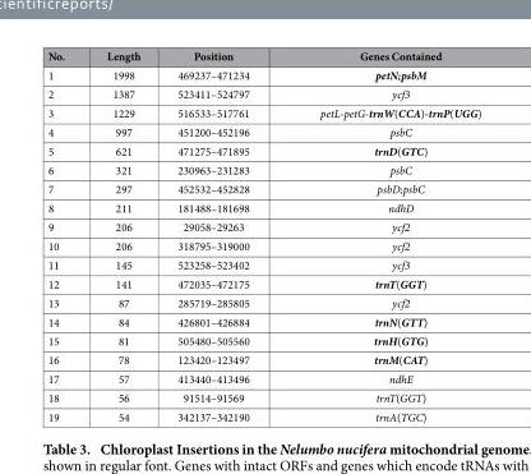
<table><thead><tr><td>No.</td><td>Length</td><td>Position</td><td>Genes Contained</td></tr></thead><tbody><tr><td>1</td><td>1998</td><td>469237–471234</td><td>petN;psbM</td></tr><tr><td>2</td><td>1387</td><td>523411–524797</td><td>ycf3</td></tr><tr><td>3</td><td>1229</td><td>516533–517761</td><td>petL-petG-trnW(CCA)-trnP(UGG)</td></tr><tr><td>4</td><td>997</td><td>451200–452196</td><td>psbC</td></tr><tr><td>5</td><td>621</td><td>471275–471895</td><td>trnD(GTC)</td></tr><tr><td>6</td><td>321</td><td>230963–231283</td><td>psbC</td></tr><tr><td>7</td><td>297</td><td>452532–452828</td><td>psbD;psbC</td></tr><tr><td>8</td><td>211</td><td>181488–181698</td><td>ndhD</td></tr><tr><td>9</td><td>206</td><td>29058–29263</td><td>ycf2</td></tr><tr><td>10</td><td>206</td><td>318795–319000</td><td>ycf2</td></tr><tr><td>11</td><td>145</td><td>523258–523402</td><td>ycf3</td></tr><tr><td>12</td><td>141</td><td>472035–472175</td><td>trnT(GGT)</td></tr><tr><td>13</td><td>87</td><td>285719–285805</td><td>ycf2</td></tr><tr><td>14</td><td>84</td><td>426801–426884</td><td>trnN(GTT)</td></tr><tr><td>15</td><td>81</td><td>505480–505560</td><td>trnH(GTG)</td></tr><tr><td>16</td><td>78</td><td>123420–123497</td><td>trnM(CAT)</td></tr><tr><td>17</td><td>57</td><td>413440–413496</td><td>ndhE</td></tr><tr><td>18</td><td>56</td><td>91514–91569</td><td>trnT(GGT)</td></tr><tr><td>19</td><td>54</td><td>342137–342190</td><td>trnA(TGC)</td></tr></tbody></table>